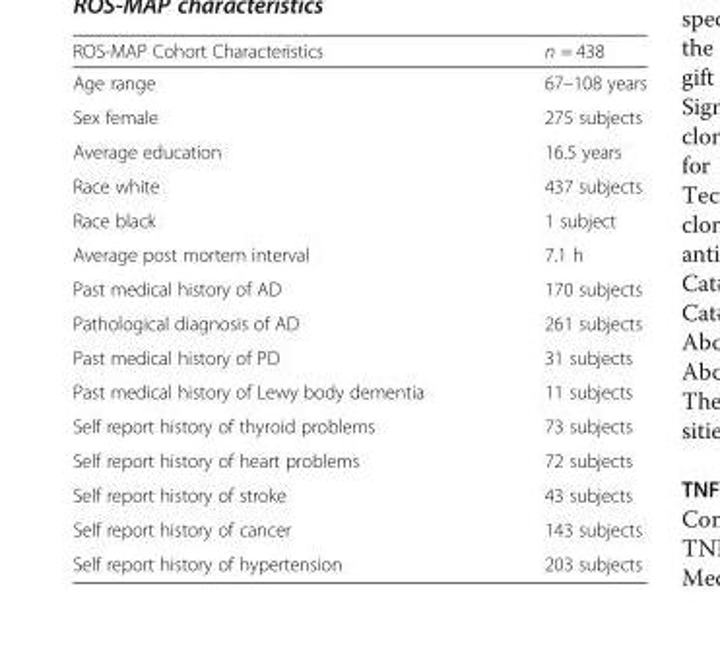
<table><tbody><tr><td>Age range</td><td>67–108 years</td></tr><tr><td>Sex female</td><td>275 subjects</td></tr><tr><td>Average education</td><td>16.5 years</td></tr><tr><td>Race white</td><td>437 subjects</td></tr><tr><td>Race black</td><td>1 subject</td></tr><tr><td>Average post mortem interval</td><td>7.1 h</td></tr><tr><td>Past medical history of AD</td><td>170 subjects</td></tr><tr><td>Pathological diagnosis of AD</td><td>261 subjects</td></tr><tr><td>Past medical history of PD</td><td>31 subjects</td></tr><tr><td>Past medical history of Lewy body dementia</td><td>11 subjects</td></tr><tr><td>Self report history of thyroid problems</td><td>73 subjects</td></tr><tr><td>Self report history of heart problems</td><td>72 subjects</td></tr><tr><td>Self report history of stroke</td><td>43 subjects</td></tr><tr><td>Self report history of cancer</td><td>143 subjects</td></tr><tr><td>Self report history of hypertension</td><td>203 subjects</td></tr></tbody></table>